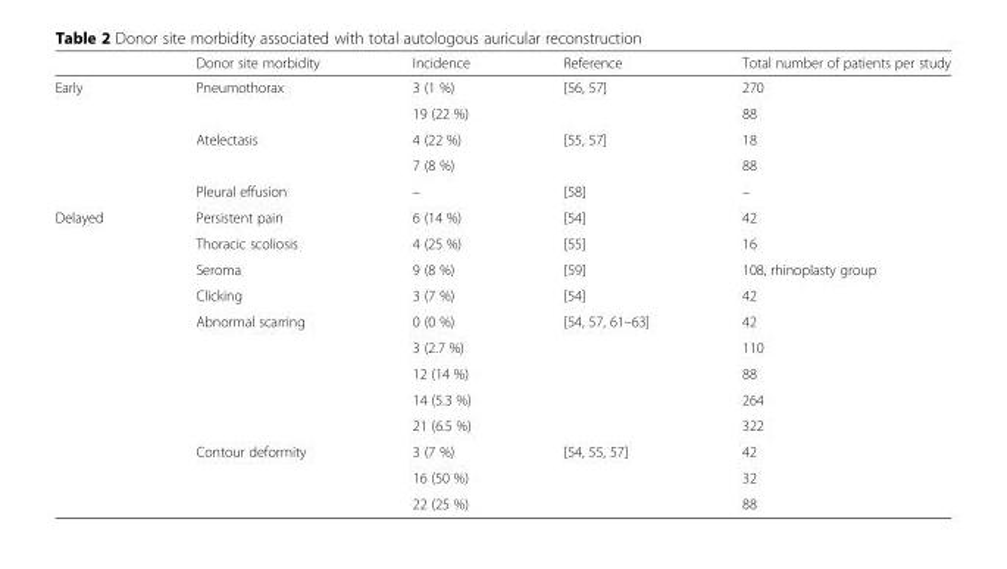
<table><thead><tr><td></td><td>Donor site morbidity</td><td>Incidence</td><td>Reference</td><td>Total number of patients per study</td></tr></thead><tbody><tr><td rowspan="5">Early</td><td>Pneumothorax</td><td>3 (1 %)</td><td>[56, 57]</td><td>270</td></tr><tr><td></td><td>19 (22 %)</td><td></td><td>88</td></tr><tr><td>Atelectasis</td><td>4 (22 %)</td><td>[55, 57]</td><td>18</td></tr><tr><td></td><td>7 (8 %)</td><td></td><td>88</td></tr><tr><td>Pleural effusion</td><td>–</td><td>[58]</td><td>–</td></tr><tr><td rowspan="12">Delayed</td><td>Persistent pain</td><td>6 (14 %)</td><td>[54]</td><td>42</td></tr><tr><td>Thoracic scoliosis</td><td>4 (25 %)</td><td>[55]</td><td>16</td></tr><tr><td>Seroma</td><td>9 (8 %)</td><td>[59]</td><td>108, rhinoplasty group</td></tr><tr><td>Clicking</td><td>3 (7 %)</td><td>[54]</td><td>42</td></tr><tr><td>Abnormal scarring</td><td>0 (0 %)</td><td>[54, 57, 61–63]</td><td>42</td></tr><tr><td></td><td>3 (2.7 %)</td><td></td><td>110</td></tr><tr><td></td><td>12 (14 %)</td><td></td><td>88</td></tr><tr><td></td><td>14 (5.3 %)</td><td></td><td>264</td></tr><tr><td></td><td>21 (6.5 %)</td><td></td><td>322</td></tr><tr><td>Contour deformity</td><td>3 (7 %)</td><td>[54, 55, 57]</td><td>42</td></tr><tr><td></td><td>16 (50 %)</td><td></td><td>32</td></tr><tr><td></td><td>22 (25 %)</td><td></td><td>88</td></tr></tbody></table>